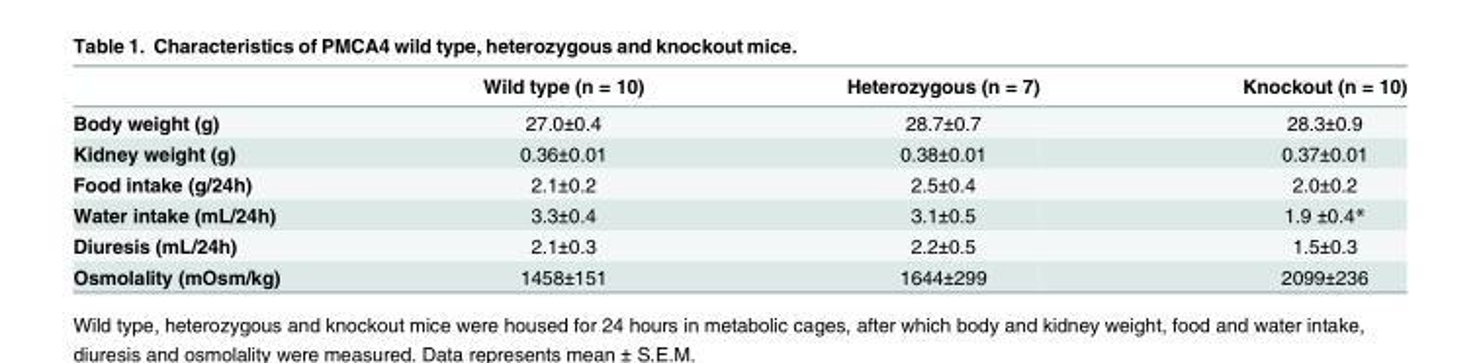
<table><thead><tr><td></td><td>Wild type (n = 10)</td><td>Heterozygous (n = 7)</td><td>Knockout (n = 10)</td></tr></thead><tbody><tr><td>Body weight (g)</td><td>27.0±0.4</td><td>28.7±0.7</td><td>28.3±0.9</td></tr><tr><td>Kidney weight (g)</td><td>0.36±0.01</td><td>0.38±0.01</td><td>0.37±0.01</td></tr><tr><td>Food intake (g/24h)</td><td>2.1±0.2</td><td>2.5±0.4</td><td>2.0±0.2</td></tr><tr><td>Water intake (mL/24h)</td><td>3.3±0.4</td><td>3.1±0.5</td><td>1.9 ±0.4*</td></tr><tr><td>Diuresis (mL/24h)</td><td>2.1±0.3</td><td>2.2±0.5</td><td>1.5±0.3</td></tr><tr><td>Osmolality (mOsm/kg)</td><td>1458±151</td><td>1644±299</td><td>2099±236</td></tr></tbody></table>